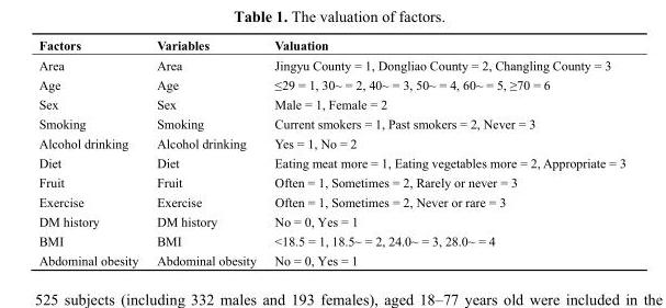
<table><thead><tr><td>Factors</td><td>Variables</td><td>Valuation</td></tr></thead><tbody><tr><td>Area</td><td>Area</td><td>Jingyu County = 1, Dongliao County = 2, Changling County = 3</td></tr><tr><td>Age</td><td>Age</td><td>≤29 = 1, 30~ = 2, 40~ = 3, 50~ = 4, 60~ = 5, ≥70 = 6</td></tr><tr><td>Sex</td><td>Sex</td><td>Male = 1, Female = 2</td></tr><tr><td>Smoking</td><td>Smoking</td><td>Current smokers = 1, Past smokers = 2, Never = 3</td></tr><tr><td>Alcohol drinking</td><td>Alcohol drinking</td><td>Yes = 1, No = 2</td></tr><tr><td>Diet Fruit</td><td>Diet Fruit</td><td>Eating meat more = 1, Eating vegetables more = 2, Appropriate = 3 Often = 1, Sometimes = 2, Rarely or never = 3</td></tr><tr><td>Exercise</td><td>Exercise</td><td>Often = 1, Sometimes = 2, Never or rare = 3</td></tr><tr><td>DM history</td><td>DM history</td><td>No = 0, Yes = 1</td></tr><tr><td>BMI</td><td>BMI</td><td>&lt;18.5 = 1, 18.5~ = 2, 24.0~ = 3, 28.0~ = 4</td></tr><tr><td>Abdominal obesity</td><td>Abdominal obesity</td><td>No = 0, Yes = 1</td></tr></tbody></table>